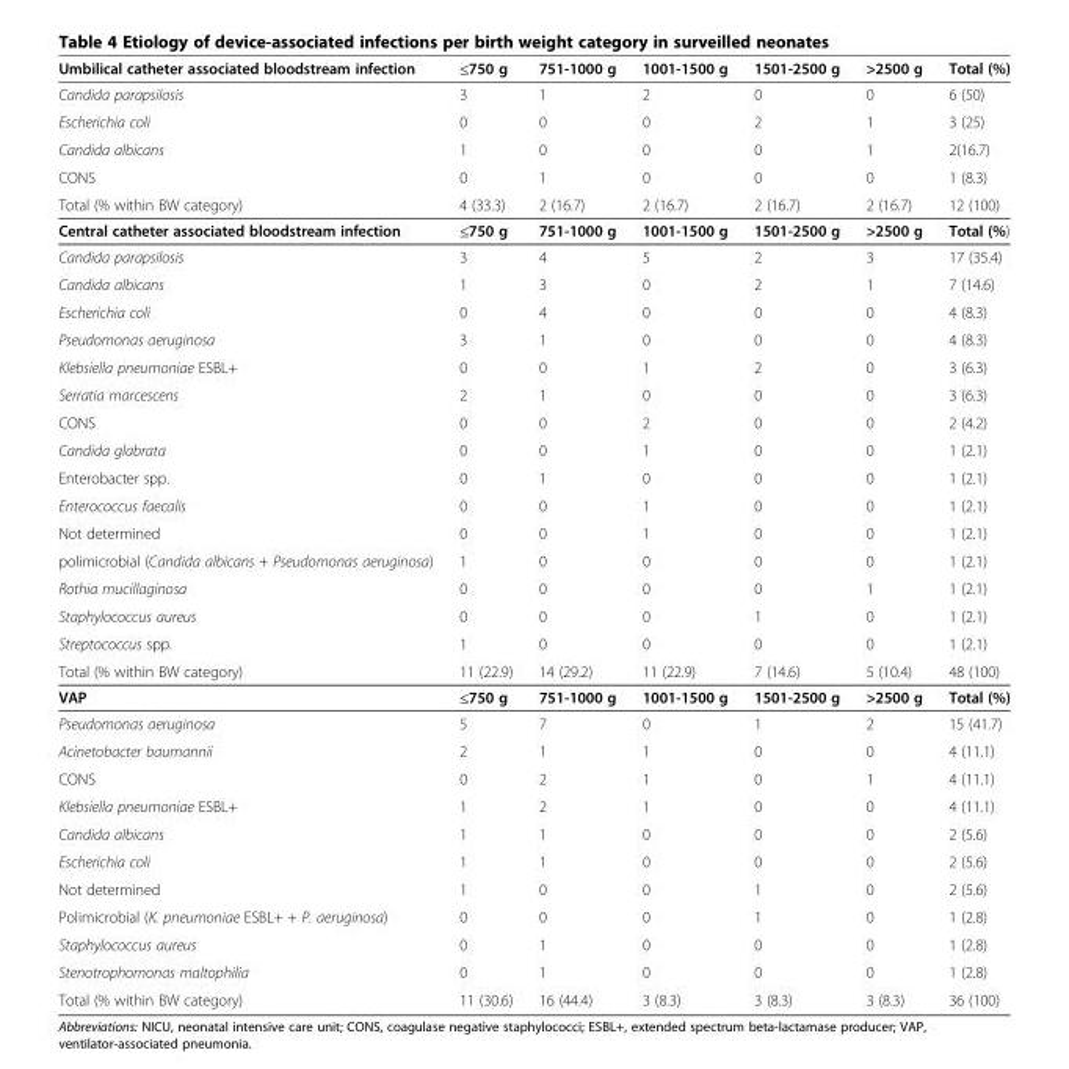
<table><thead><tr><td>Umbilical catheter associated bloodstream infection</td><td>≤750 g</td><td>751-1000 g</td><td>1001-1500 g</td><td>1501-2500 g</td><td>&gt;2500 g</td><td>Total (%)</td></tr></thead><tbody><tr><td>Candida parapsilosis</td><td>3</td><td>1</td><td>2</td><td>0</td><td>0</td><td>6 (50)</td></tr><tr><td>Escherichia coli</td><td>0</td><td>0</td><td>0</td><td>2</td><td>1</td><td>3 (25)</td></tr><tr><td>Candida albicans</td><td>1</td><td>0</td><td>0</td><td>0</td><td>1</td><td>2(16.7)</td></tr><tr><td>CONS</td><td>0</td><td>1</td><td>0</td><td>0</td><td>0</td><td>1 (8.3)</td></tr><tr><td>Total (% within BW category)</td><td>4 (33.3)</td><td>2 (16.7)</td><td>2 (16.7)</td><td>2 (16.7)</td><td>2 (16.7)</td><td>12 (100)</td></tr><tr><td>Central catheter associated bloodstream infection</td><td>≤750 g</td><td>751-1000 g</td><td>1001-1500 g</td><td>1501-2500 g</td><td>&gt;2500 g</td><td>Total (%)</td></tr><tr><td>Candida parapsilosis</td><td>3</td><td>4</td><td>5</td><td>2</td><td>3</td><td>17 (35.4)</td></tr><tr><td>Candida albicans</td><td>1</td><td>3</td><td>0</td><td>2</td><td>1</td><td>7 (14.6)</td></tr><tr><td>Escherichia coli</td><td>0</td><td>4</td><td>0</td><td>0</td><td>0</td><td>4 (8.3)</td></tr><tr><td>Pseudomonas aeruginosa</td><td>3</td><td>1</td><td>0</td><td>0</td><td>0</td><td>4 (8.3)</td></tr><tr><td>Klebsiella pneumoniae ESBL+</td><td>0</td><td>0</td><td>1</td><td>2</td><td>0</td><td>3 (6.3)</td></tr><tr><td>Serratia marcescens</td><td>2</td><td>1</td><td>0</td><td>0</td><td>0</td><td>3 (6.3)</td></tr><tr><td>CONS</td><td>0</td><td>0</td><td>2</td><td>0</td><td>0</td><td>2 (4.2)</td></tr><tr><td>Candida glabrata</td><td>0</td><td>0</td><td>1</td><td>0</td><td>0</td><td>1 (2.1)</td></tr><tr><td>Enterobacter spp.</td><td>0</td><td>1</td><td>0</td><td>0</td><td>0</td><td>1 (2.1)</td></tr><tr><td>Enterococcus faecalis</td><td>0</td><td>0</td><td>1</td><td>0</td><td>0</td><td>1 (2.1)</td></tr><tr><td>Not determined</td><td>0</td><td>0</td><td>1</td><td>0</td><td>0</td><td>1 (2.1)</td></tr><tr><td>polimicrobial (Candida albicans + Pseudomonas aeruginosa)</td><td>1</td><td>0</td><td>0</td><td>0</td><td>0</td><td>1 (2.1)</td></tr><tr><td>Rothia mucillaginosa</td><td>0</td><td>0</td><td>0</td><td>0</td><td>1</td><td>1 (2.1)</td></tr><tr><td>Staphylococcus aureus</td><td>0</td><td>0</td><td>0</td><td>1</td><td>0</td><td>1 (2.1)</td></tr><tr><td>Streptococcus spp.</td><td>1</td><td>0</td><td>0</td><td>0</td><td>0</td><td>1 (2.1)</td></tr><tr><td>Total (% within BW category)</td><td>11 (22.9)</td><td>14 (29.2)</td><td>11 (22.9)</td><td>7 (14.6)</td><td>5 (10.4)</td><td>48 (100)</td></tr><tr><td>VAP</td><td>≤750 g</td><td>751-1000 g</td><td>1001-1500 g</td><td>1501-2500 g</td><td>&gt;2500 g</td><td>Total (%)</td></tr><tr><td>Pseudomonas aeruginosa</td><td>5</td><td>7</td><td>0</td><td>1</td><td>2</td><td>15 (41.7)</td></tr><tr><td>Acinetobacter baumannii</td><td>2</td><td>1</td><td>1</td><td>0</td><td>0</td><td>4 (11.1)</td></tr><tr><td>CONS</td><td>0</td><td>2</td><td>1</td><td>0</td><td>1</td><td>4 (11.1)</td></tr><tr><td>Klebsiella pneumoniae ESBL+</td><td>1</td><td>2</td><td>1</td><td>0</td><td>0</td><td>4 (11.1)</td></tr><tr><td>Candida albicans</td><td>1</td><td>1</td><td>0</td><td>0</td><td>0</td><td>2 (5.6)</td></tr><tr><td>Escherichia coli</td><td>1</td><td>1</td><td>0</td><td>0</td><td>0</td><td>2 (5.6)</td></tr><tr><td>Not determined</td><td>1</td><td>0</td><td>0</td><td>1</td><td>0</td><td>2 (5.6)</td></tr><tr><td>Polimicrobial (K. pneumoniae ESBL+ + P. aeruginosa)</td><td>0</td><td>0</td><td>0</td><td>1</td><td>0</td><td>1 (2.8)</td></tr><tr><td>Staphylococcus aureus</td><td>0</td><td>1</td><td>0</td><td>0</td><td>0</td><td>1 (2.8)</td></tr><tr><td>Stenotrophomonas maltophilia</td><td>0</td><td>1</td><td>0</td><td>0</td><td>0</td><td>1 (2.8)</td></tr><tr><td>Total (% within BW category)</td><td>11 (30.6)</td><td>16 (44.4)</td><td>3 (8.3)</td><td>3 (8.3)</td><td>3 (8.3)</td><td>36 (100)</td></tr></tbody></table>